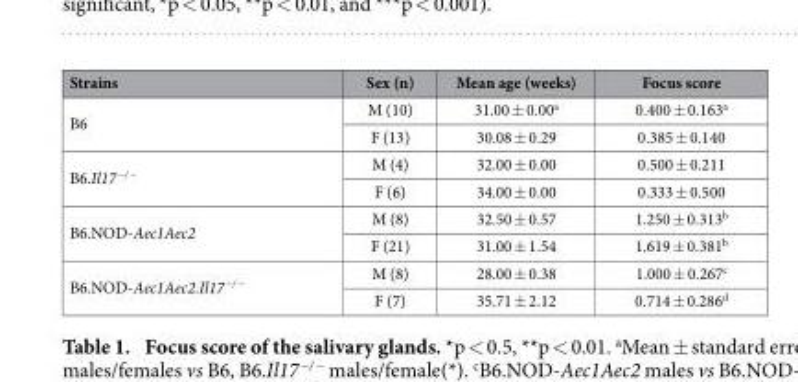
<table><thead><tr><td>Strains</td><td>Sex (n)</td><td>Mean age (weeks)</td><td>Focus score</td></tr></thead><tbody><tr><td rowspan="2">B6</td><td>M (10)</td><td>31.00 ± 0.00<sup>a</sup></td><td>0.400 ± 0.163<sup>a</sup></td></tr><tr><td>F (13)</td><td>30.08 ± 0.29</td><td>0.385 ± 0.140</td></tr><tr><td rowspan="2">B6.Il17<sup>−/−</sup></td><td>M (4)</td><td>32.00 ± 0.00</td><td>0.500 ± 0.211</td></tr><tr><td>F (6)</td><td>34.00 ± 0.00</td><td>0.333 ± 0.500</td></tr><tr><td rowspan="2">B6.NOD-Aec1Aec2</td><td>M (8)</td><td>32.50 ± 0.57</td><td>1.250 ± 0.313<sup>b</sup></td></tr><tr><td>F (21)</td><td>31.00 ± 1.54</td><td>1.619 ± 0.381<sup>b</sup></td></tr><tr><td rowspan="2">B6.NOD-Aec1Aec2.Il17<sup>−/−</sup></td><td>M (8)</td><td>28.00 ± 0.38</td><td>1.000 ± 0.267<sup>c</sup></td></tr><tr><td>F (7)</td><td>35.71 ± 2.12</td><td>0.714 ± 0.286<sup>d</sup></td></tr></tbody></table>